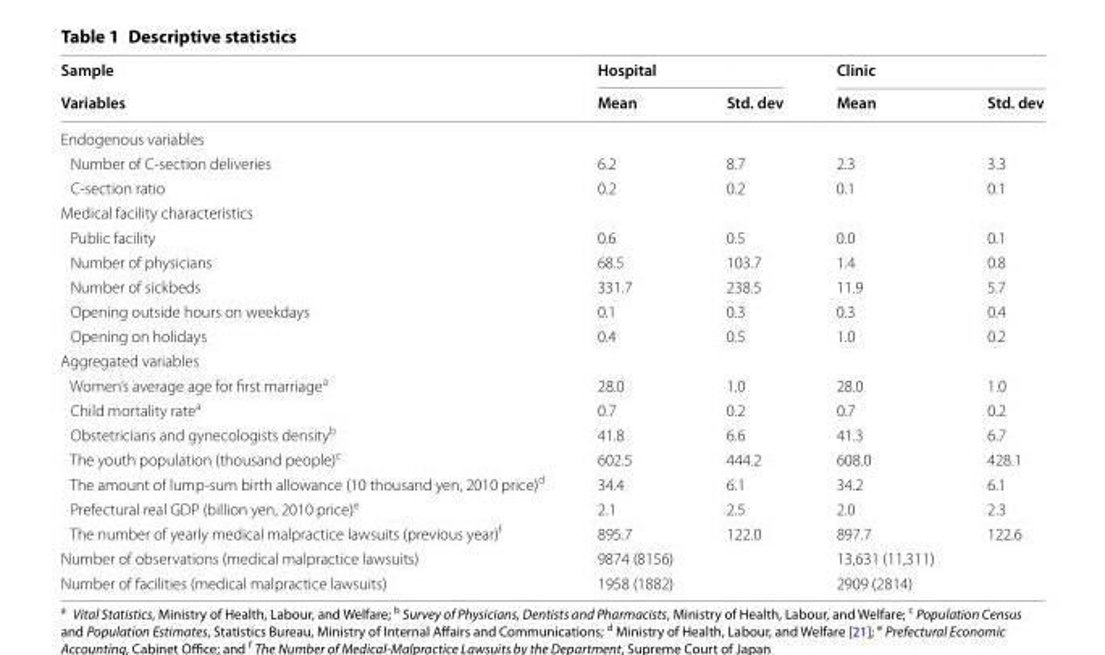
<table><thead><tr><td rowspan="2">Sample Variables</td><td colspan="2">Hospital</td><td colspan="2">Clinic</td></tr><tr><td>Mean</td><td>Std. dev</td><td>Mean</td><td>Std. dev</td></tr></thead><tbody><tr><td colspan="5">Endogenous variables</td></tr><tr><td>Number of C-section deliveries</td><td>6.2</td><td>8.7</td><td>2.3</td><td>3.3</td></tr><tr><td>C-section ratio</td><td>0.2</td><td>0.2</td><td>0.1</td><td>0.1</td></tr><tr><td colspan="5">Medical facility characteristics</td></tr><tr><td>Public facility</td><td>0.6</td><td>0.5</td><td>0.0</td><td>0.1</td></tr><tr><td>Number of physicians</td><td>68.5</td><td>103.7</td><td>1.4</td><td>0.8</td></tr><tr><td>Number of sickbeds</td><td>331.7</td><td>238.5</td><td>11.9</td><td>5.7</td></tr><tr><td>Opening outside hours on weekdays</td><td>0.1</td><td>0.3</td><td>0.3</td><td>0.4</td></tr><tr><td>Opening on holidays</td><td>0.4</td><td>0.5</td><td>1.0</td><td>0.2</td></tr><tr><td colspan="5">Aggregated variables</td></tr><tr><td>Women’s average age for first marriage<sup>a</sup></td><td>28.0</td><td>1.0</td><td>28.0</td><td>1.0</td></tr><tr><td>Child mortality rate<sup>a</sup></td><td>0.7</td><td>0.2</td><td>0.7</td><td>0.2</td></tr><tr><td>Obstetricians and gynecologists density<sup>b</sup></td><td>41.8</td><td>6.6</td><td>41.3</td><td>6.7</td></tr><tr><td>The youth population (thousand people)<sup>c</sup></td><td>602.5</td><td>444.2</td><td>608.0</td><td>428.1</td></tr><tr><td>The amount of lump-sum birth allowance (10 thousand yen, 2010 price)<sup>d</sup></td><td>34.4</td><td>6.1</td><td>34.2</td><td>6.1</td></tr><tr><td>Prefectural real GDP (billion yen, 2010 price)<sup>e</sup></td><td>2.1</td><td>2.5</td><td>2.0</td><td>2.3</td></tr><tr><td>The number of yearly medical malpractice lawsuits (previous year)<sup>f</sup></td><td>895.7</td><td>122.0</td><td>897.7</td><td>122.6</td></tr><tr><td>Number of observations (medical malpractice lawsuits)</td><td colspan="2">9874 (8156)</td><td colspan="2">13,631 (11,311)</td></tr><tr><td>Number of facilities (medical malpractice lawsuits)</td><td colspan="2">1958 (1882)</td><td colspan="2">2909 (2814)</td></tr></tbody></table>